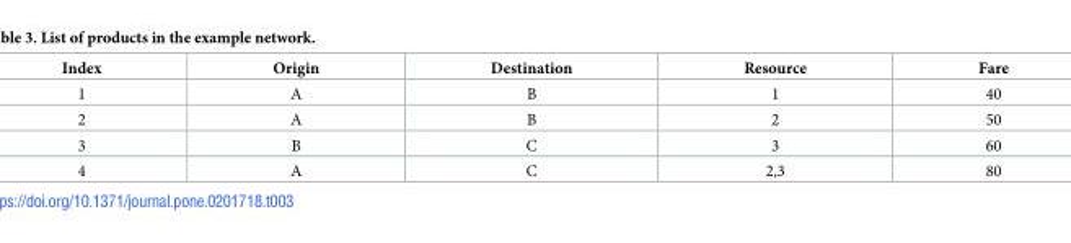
<table><thead><tr><td>Index</td><td>Origin</td><td>Destination</td><td>Resource</td><td>Fare</td></tr></thead><tbody><tr><td>1</td><td>A</td><td>B</td><td>1</td><td>40</td></tr><tr><td>2</td><td>A</td><td>B</td><td>2</td><td>50</td></tr><tr><td>3</td><td>B</td><td>C</td><td>3</td><td>60</td></tr><tr><td>4</td><td>A</td><td>C</td><td>2,3</td><td>80</td></tr></tbody></table>